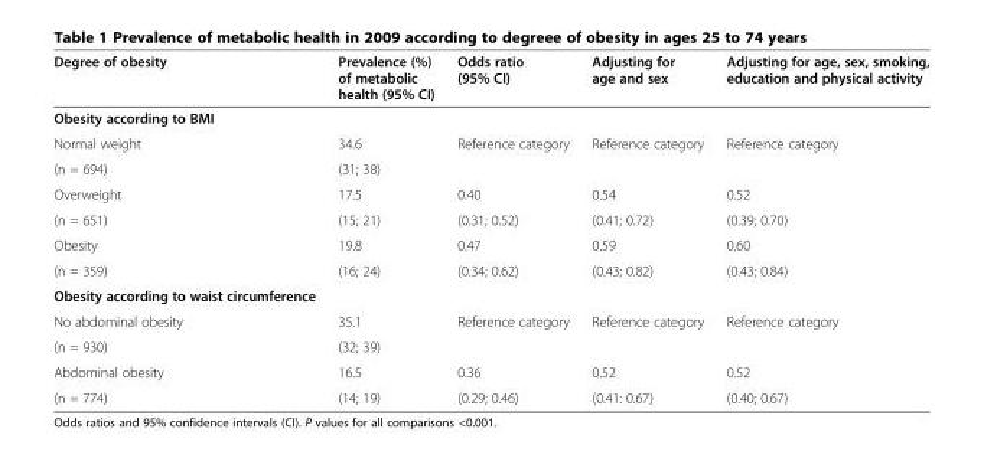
<table><thead><tr><td>Degree of obesity</td><td>Prevalence (%) of metabolic health (95% CI)</td><td>Odds ratio (95% CI)</td><td>Adjusting for age and sex</td><td>Adjusting for age, sex, smoking, education and physical activity</td></tr></thead><tbody><tr><td colspan="5">Obesity according to BMI</td></tr><tr><td>Normal weight</td><td>34.6</td><td>Reference category</td><td>Reference category</td><td>Reference category</td></tr><tr><td>(n = 694)</td><td>(31; 38)</td><td></td><td></td><td></td></tr><tr><td>Overweight</td><td>17.5</td><td>0.40</td><td>0.54</td><td>0.52</td></tr><tr><td>(n = 651)</td><td>(15; 21)</td><td>(0.31; 0.52)</td><td>(0.41; 0.72)</td><td>(0.39; 0.70)</td></tr><tr><td>Obesity</td><td>19.8</td><td>0.47</td><td>0.59</td><td>0.60</td></tr><tr><td>(n = 359)</td><td>(16; 24)</td><td>(0.34; 0.62)</td><td>(0.43; 0.82)</td><td>(0.43; 0.84)</td></tr><tr><td colspan="5">Obesity according to waist circumference</td></tr><tr><td>No abdominal obesity</td><td>35.1</td><td>Reference category</td><td>Reference category</td><td>Reference category</td></tr><tr><td>(n = 930)</td><td>(32; 39)</td><td></td><td></td><td></td></tr><tr><td>Abdominal obesity</td><td>16.5</td><td>0.36</td><td>0.52</td><td>0.52</td></tr><tr><td>(n = 774)</td><td>(14; 19)</td><td>(0.29; 0.46)</td><td>(0.41: 0.67)</td><td>(0.40; 0.67)</td></tr></tbody></table>